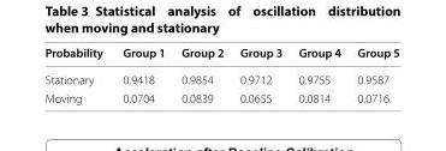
<table><thead><tr><td>Probability</td><td>Group 1</td><td>Group 2</td><td>Group 3</td><td>Group 4</td><td>Group 5</td></tr></thead><tbody><tr><td>Stationary</td><td>0.9418</td><td>0.9854</td><td>0.9712</td><td>0.9755</td><td>0.9587</td></tr><tr><td>Moving</td><td>0.0704</td><td>0.0839</td><td>0.0655</td><td>0.0814</td><td>0.0716</td></tr></tbody></table>